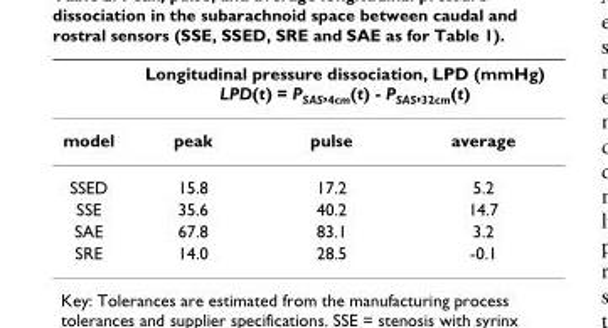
<table><thead><tr><td rowspan="2">model</td><td colspan="3">Longitudinal pressure dissociation, LPD (mmHg) LPD(t) = P<sub>SAS</sub>,<sub>4cm</sub>(t) - P<sub>SAS</sub>,<sub>32cm</sub>(t)</td></tr><tr><td>peak</td><td>pulse</td><td>average</td></tr></thead><tbody><tr><td>SSED</td><td>15.8</td><td>17.2</td><td>5.2</td></tr><tr><td>SSE</td><td>35.6</td><td>40.2</td><td>14.7</td></tr><tr><td>SAE</td><td>67.8</td><td>83.1</td><td>3.2</td></tr><tr><td>SRE</td><td>14.0</td><td>28.5</td><td>-0.1</td></tr></tbody></table>